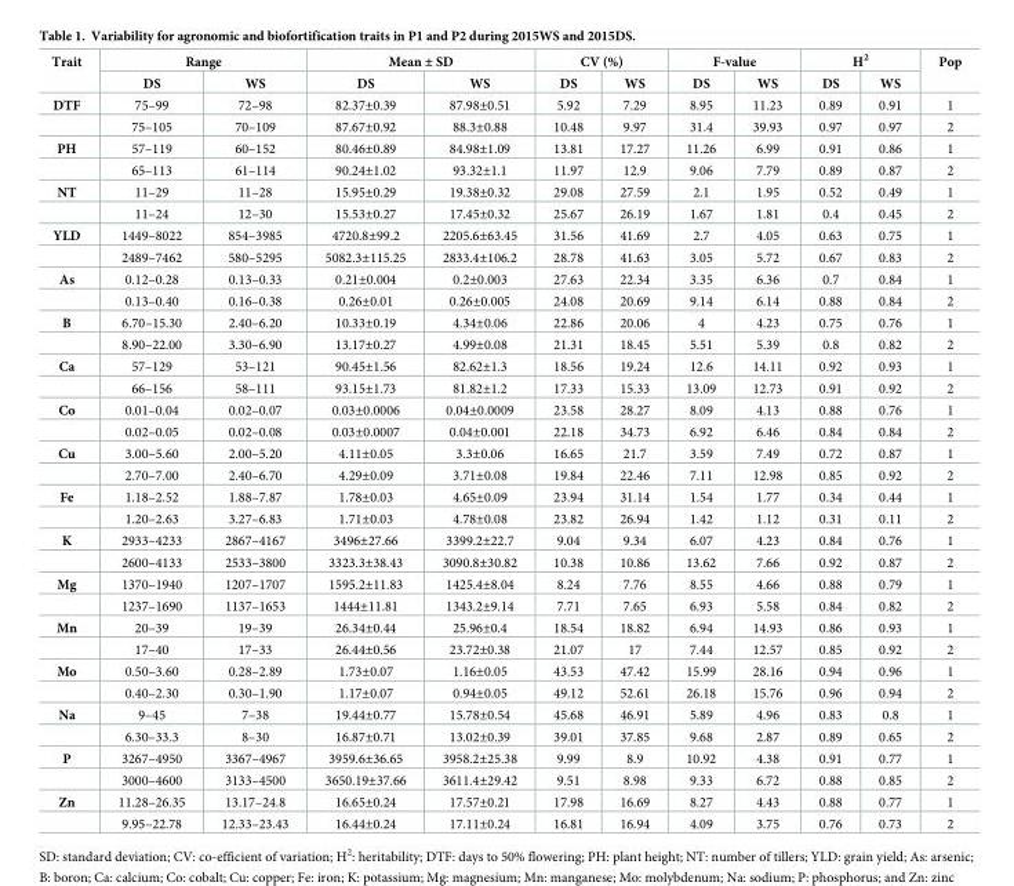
<table><thead><tr><td rowspan="2">Trait</td><td colspan="2">Range</td><td colspan="2">Mean ± SD</td><td colspan="2">CV (%)</td><td colspan="2">F-value</td><td colspan="2">H<sup>2</sup></td><td rowspan="2">Pop</td></tr><tr><td>DS</td><td>WS</td><td>DS</td><td>WS</td><td>DS</td><td>WS</td><td>DS</td><td>WS</td><td>DS</td><td>WS</td></tr></thead><tbody><tr><td rowspan="2">DTF</td><td>75–99</td><td>72–98</td><td>82.37±0.39</td><td>87.98±0.51</td><td>5.92</td><td>7.29</td><td>8.95</td><td>11.23</td><td>0.89</td><td>0.91</td><td>1</td></tr><tr><td>75–105</td><td>70–109</td><td>87.67±0.92</td><td>88.3±0.88</td><td>10.48</td><td>9.97</td><td>31.4</td><td>39.93</td><td>0.97</td><td>0.97</td><td>2</td></tr><tr><td rowspan="2">PH</td><td>57–119</td><td>60–152</td><td>80.46±0.89</td><td>84.98±1.09</td><td>13.81</td><td>17.27</td><td>11.26</td><td>6.99</td><td>0.91</td><td>0.86</td><td>1</td></tr><tr><td>65–113</td><td>61–114</td><td>90.24±1.02</td><td>93.32±1.1</td><td>11.97</td><td>12.9</td><td>9.06</td><td>7.79</td><td>0.89</td><td>0.87</td><td>2</td></tr><tr><td rowspan="2">NT</td><td>11–29</td><td>11–28</td><td>15.95±0.29</td><td>19.38±0.32</td><td>29.08</td><td>27.59</td><td>2.1</td><td>1.95</td><td>0.52</td><td>0.49</td><td>1</td></tr><tr><td>11–24</td><td>12–30</td><td>15.53±0.27</td><td>17.45±0.32</td><td>25.67</td><td>26.19</td><td>1.67</td><td>1.81</td><td>0.4</td><td>0.45</td><td>2</td></tr><tr><td rowspan="2">YLD</td><td>1449–8022</td><td>854–3985</td><td>4720.8±99.2</td><td>2205.6±63.45</td><td>31.56</td><td>41.69</td><td>2.7</td><td>4.05</td><td>0.63</td><td>0.75</td><td>1</td></tr><tr><td>2489–7462</td><td>580–5295</td><td>5082.3±115.25</td><td>2833.4±106.2</td><td>28.78</td><td>41.63</td><td>3.05</td><td>5.72</td><td>0.67</td><td>0.83</td><td>2</td></tr><tr><td rowspan="2">As</td><td>0.12–0.28</td><td>0.13–0.33</td><td>0.21±0.004</td><td>0.2±0.003</td><td>27.63</td><td>22.34</td><td>3.35</td><td>6.36</td><td>0.7</td><td>0.84</td><td>1</td></tr><tr><td>0.13–0.40</td><td>0.16–0.38</td><td>0.26±0.01</td><td>0.26±0.005</td><td>24.08</td><td>20.69</td><td>9.14</td><td>6.14</td><td>0.88</td><td>0.84</td><td>2</td></tr><tr><td rowspan="2">B</td><td>6.70–15.30</td><td>2.40–6.20</td><td>10.33±0.19</td><td>4.34±0.06</td><td>22.86</td><td>20.06</td><td>4</td><td>4.23</td><td>0.75</td><td>0.76</td><td>1</td></tr><tr><td>8.90–22.00</td><td>3.30–6.90</td><td>13.17±0.27</td><td>4.99±0.08</td><td>21.31</td><td>18.45</td><td>5.51</td><td>5.39</td><td>0.8</td><td>0.82</td><td>2</td></tr><tr><td rowspan="2">Ca</td><td>57–129</td><td>53–121</td><td>90.45±1.56</td><td>82.62±1.3</td><td>18.56</td><td>19.24</td><td>12.6</td><td>14.11</td><td>0.92</td><td>0.93</td><td>1</td></tr><tr><td>66–156</td><td>58–111</td><td>93.15±1.73</td><td>81.82±1.2</td><td>17.33</td><td>15.33</td><td>13.09</td><td>12.73</td><td>0.91</td><td>0.92</td><td>2</td></tr><tr><td rowspan="2">Co</td><td>0.01–0.04</td><td>0.02–0.07</td><td>0.03±0.0006</td><td>0.04±0.0009</td><td>23.58</td><td>28.27</td><td>8.09</td><td>4.13</td><td>0.88</td><td>0.76</td><td>1</td></tr><tr><td>0.02–0.05</td><td>0.02–0.08</td><td>0.03±0.0007</td><td>0.04±0.001</td><td>22.18</td><td>34.73</td><td>6.92</td><td>6.46</td><td>0.84</td><td>0.84</td><td>2</td></tr><tr><td rowspan="2">Cu</td><td>3.00–5.60</td><td>2.00–5.20</td><td>4.11±0.05</td><td>3.3±0.06</td><td>16.65</td><td>21.7</td><td>3.59</td><td>7.49</td><td>0.72</td><td>0.87</td><td>1</td></tr><tr><td>2.70–7.00</td><td>2.40–6.70</td><td>4.29±0.09</td><td>3.71±0.08</td><td>19.84</td><td>22.46</td><td>7.11</td><td>12.98</td><td>0.85</td><td>0.92</td><td>2</td></tr><tr><td rowspan="2">Fe</td><td>1.18–2.52</td><td>1.88–7.87</td><td>1.78±0.03</td><td>4.65±0.09</td><td>23.94</td><td>31.14</td><td>1.54</td><td>1.77</td><td>0.34</td><td>0.44</td><td>1</td></tr><tr><td>1.20–2.63</td><td>3.27–6.83</td><td>1.71±0.03</td><td>4.78±0.08</td><td>23.82</td><td>26.94</td><td>1.42</td><td>1.12</td><td>0.31</td><td>0.11</td><td>2</td></tr><tr><td rowspan="2">K</td><td>2933–4233</td><td>2867–4167</td><td>3496±27.66</td><td>3399.2±22.7</td><td>9.04</td><td>9.34</td><td>6.07</td><td>4.23</td><td>0.84</td><td>0.76</td><td>1</td></tr><tr><td>2600–4133</td><td>2533–3800</td><td>3323.3±38.43</td><td>3090.8±30.82</td><td>10.38</td><td>10.86</td><td>13.62</td><td>7.66</td><td>0.92</td><td>0.87</td><td>2</td></tr><tr><td rowspan="2">Mg</td><td>1370–1940</td><td>1207–1707</td><td>1595.2±11.83</td><td>1425.4±8.04</td><td>8.24</td><td>7.76</td><td>8.55</td><td>4.66</td><td>0.88</td><td>0.79</td><td>1</td></tr><tr><td>1237–1690</td><td>1137–1653</td><td>1444±11.81</td><td>1343.2±9.14</td><td>7.71</td><td>7.65</td><td>6.93</td><td>5.58</td><td>0.84</td><td>0.82</td><td>2</td></tr><tr><td rowspan="2">Mn</td><td>20–39</td><td>19–39</td><td>26.34±0.44</td><td>25.96±0.4</td><td>18.54</td><td>18.82</td><td>6.94</td><td>14.93</td><td>0.86</td><td>0.93</td><td>1</td></tr><tr><td>17–40</td><td>17–33</td><td>26.44±0.56</td><td>23.72±0.38</td><td>21.07</td><td>17</td><td>7.44</td><td>12.57</td><td>0.85</td><td>0.92</td><td>2</td></tr><tr><td rowspan="2">Mo</td><td>0.50–3.60</td><td>0.28–2.89</td><td>1.73±0.07</td><td>1.16±0.05</td><td>43.53</td><td>47.42</td><td>15.99</td><td>28.16</td><td>0.94</td><td>0.96</td><td>1</td></tr><tr><td>0.40–2.30</td><td>0.30–1.90</td><td>1.17±0.07</td><td>0.94±0.05</td><td>49.12</td><td>52.61</td><td>26.18</td><td>15.76</td><td>0.96</td><td>0.94</td><td>2</td></tr><tr><td rowspan="2">Na</td><td>9–45</td><td>7–38</td><td>19.44±0.77</td><td>15.78±0.54</td><td>45.68</td><td>46.91</td><td>5.89</td><td>4.96</td><td>0.83</td><td>0.8</td><td>1</td></tr><tr><td>6.30–33.3</td><td>8–30</td><td>16.87±0.71</td><td>13.02±0.39</td><td>39.01</td><td>37.85</td><td>9.68</td><td>2.87</td><td>0.89</td><td>0.65</td><td>2</td></tr><tr><td rowspan="2">P</td><td>3267–4950</td><td>3367–4967</td><td>3959.6±36.65</td><td>3958.2±25.38</td><td>9.99</td><td>8.9</td><td>10.92</td><td>4.38</td><td>0.91</td><td>0.77</td><td>1</td></tr><tr><td>3000–4600</td><td>3133–4500</td><td>3650.19±37.66</td><td>3611.4±29.42</td><td>9.51</td><td>8.98</td><td>9.33</td><td>6.72</td><td>0.88</td><td>0.85</td><td>2</td></tr><tr><td rowspan="2">Zn</td><td>11.28–26.35</td><td>13.17–24.8</td><td>16.65±0.24</td><td>17.57±0.21</td><td>17.98</td><td>16.69</td><td>8.27</td><td>4.43</td><td>0.88</td><td>0.77</td><td>1</td></tr><tr><td>9.95–22.78</td><td>12.33–23.43</td><td>16.44±0.24</td><td>17.11±0.24</td><td>16.81</td><td>16.94</td><td>4.09</td><td>3.75</td><td>0.76</td><td>0.73</td><td>2</td></tr></tbody></table>